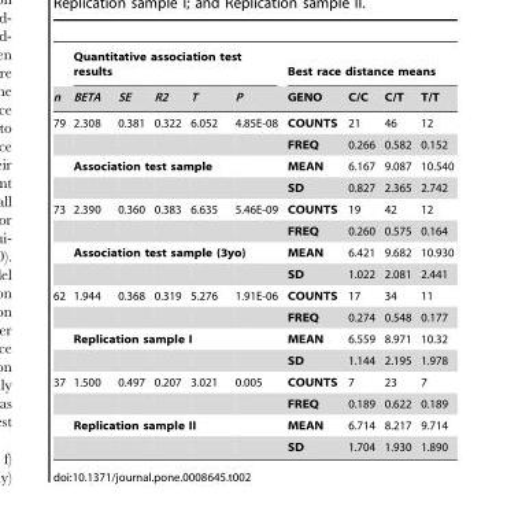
<table><thead><tr><td rowspan="2">n</td><td colspan="5">Quantitative association test results</td><td colspan="4">Best race distance means</td></tr><tr><td>BETA</td><td>SE</td><td>R2</td><td>T</td><td>P</td><td>GENO</td><td>C/C</td><td>C/T</td><td>T/T</td></tr></thead><tbody><tr><td rowspan="4">79</td><td>2.308</td><td>0.381</td><td>0.322</td><td>6.052</td><td>4.85E-08</td><td>COUNTS</td><td>21</td><td>46</td><td>12</td></tr><tr><td></td><td></td><td></td><td></td><td></td><td>FREQ</td><td>0.266</td><td>0.582</td><td>0.152</td></tr><tr><td colspan="5">Association test sample</td><td>MEAN</td><td>6.167</td><td>9.087</td><td>10.540</td></tr><tr><td></td><td></td><td></td><td></td><td></td><td>SD</td><td>0.827</td><td>2.365</td><td>2.742</td></tr><tr><td rowspan="4">73</td><td>2.390</td><td>0.360</td><td>0.383</td><td>6.635</td><td>5.46E-09</td><td>COUNTS</td><td>19</td><td>42</td><td>12</td></tr><tr><td></td><td></td><td></td><td></td><td></td><td>FREQ</td><td>0.260</td><td>0.575</td><td>0.164</td></tr><tr><td colspan="5">Association test sample (3yo)</td><td>MEAN</td><td>6.421</td><td>9.682</td><td>10.930</td></tr><tr><td></td><td></td><td></td><td></td><td></td><td>SD</td><td>1.022</td><td>2.081</td><td>2.441</td></tr><tr><td rowspan="4">62</td><td>1.944</td><td>0.368</td><td>0.319</td><td>5.276</td><td>1.91E-06</td><td>COUNTS</td><td>17</td><td>34</td><td>11</td></tr><tr><td></td><td></td><td></td><td></td><td></td><td>FREQ</td><td>0.274</td><td>0.548</td><td>0.177</td></tr><tr><td colspan="5">Replication sample I</td><td>MEAN</td><td>6.559</td><td>8.971</td><td>10.32</td></tr><tr><td></td><td></td><td></td><td></td><td></td><td>SD</td><td>1.144</td><td>2.195</td><td>1.978</td></tr><tr><td rowspan="4">37</td><td>1.500</td><td>0.497</td><td>0.207</td><td>3.021</td><td>0.005</td><td>COUNTS</td><td>7</td><td>23</td><td>7</td></tr><tr><td></td><td></td><td></td><td></td><td></td><td>FREQ</td><td>0.189</td><td>0.622</td><td>0.189</td></tr><tr><td colspan="5">Replication sample II</td><td>MEAN</td><td>6.714</td><td>8.217</td><td>9.714</td></tr><tr><td></td><td></td><td></td><td></td><td></td><td>SD</td><td>1.704</td><td>1.930</td><td>1.890</td></tr></tbody></table>